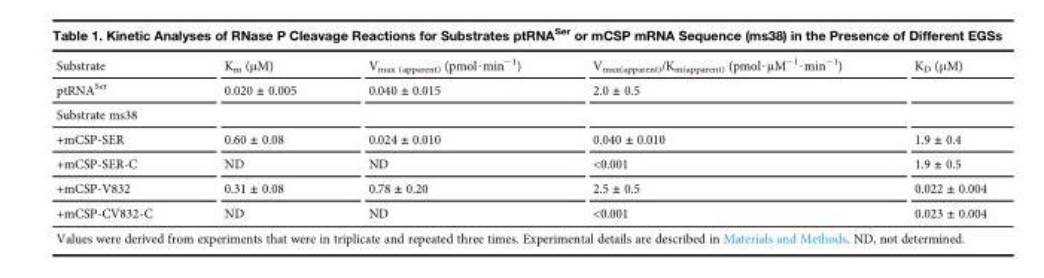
<table><thead><tr><td>Substrate</td><td>K<sub>m</sub> (μM)</td><td>V<sub>max (apparent)</sub> (pmol·min<sup>−1</sup>)</td><td>V<sub>max(apparent)</sub>/K<sub>m(apparent)</sub> (pmol·μM<sup>−1</sup>·min<sup>−1</sup>)</td><td>K<sub>D</sub> (μM)</td></tr></thead><tbody><tr><td>ptRNA<sup>Ser</sup></td><td>0.020 ± 0.005</td><td>0.040 ± 0.015</td><td>2.0 ± 0.5</td><td></td></tr><tr><td colspan="5">Substrate ms38</td></tr><tr><td>+mCSP-SER</td><td>0.60 ± 0.08</td><td>0.024 ± 0.010</td><td>0.040 ± 0.010</td><td>1.9 ± 0.4</td></tr><tr><td>+mCSP-SER-C</td><td>ND</td><td>ND</td><td>&lt;0.001</td><td>1.9 ± 0.5</td></tr><tr><td>+mCSP-V832</td><td>0.31 ± 0.08</td><td>0.78 ± 0.20</td><td>2.5 ± 0.5</td><td>0.022 ± 0.004</td></tr><tr><td>+mCSP-CV832-C</td><td>ND</td><td>ND</td><td>&lt;0.001</td><td>0.023 ± 0.004</td></tr></tbody></table>